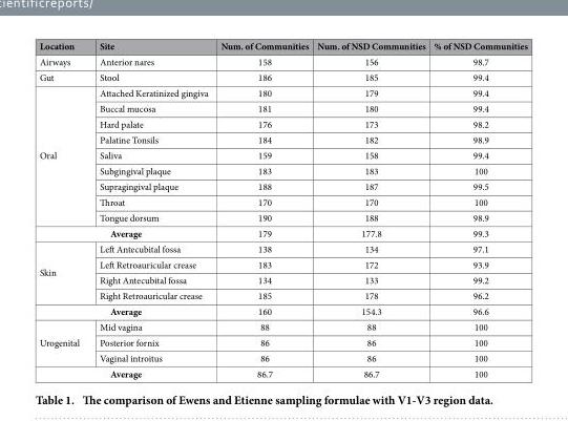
<table><thead><tr><td>Location</td><td>Site</td><td>Num. of Communities</td><td>Num. of NSD Communities</td><td>% of NSD Communities</td></tr></thead><tbody><tr><td>Airways</td><td>Anterior nares</td><td>158</td><td>156</td><td>98.7</td></tr><tr><td>Gut</td><td>Stool</td><td>186</td><td>185</td><td>99.4</td></tr><tr><td rowspan="9">Oral</td><td>Attached Keratinized gingiva</td><td>180</td><td>179</td><td>99.4</td></tr><tr><td>Buccal mucosa</td><td>181</td><td>180</td><td>99.4</td></tr><tr><td>Hard palate</td><td>176</td><td>173</td><td>98.2</td></tr><tr><td>Palatine Tonsils</td><td>184</td><td>182</td><td>98.9</td></tr><tr><td>Saliva</td><td>159</td><td>158</td><td>99.4</td></tr><tr><td>Subgingival plaque</td><td>183</td><td>183</td><td>100</td></tr><tr><td>Supragingival plaque</td><td>188</td><td>187</td><td>99.5</td></tr><tr><td>Throat</td><td>170</td><td>170</td><td>100</td></tr><tr><td>Tongue dorsum</td><td>190</td><td>188</td><td>98.9</td></tr><tr><td colspan="2">Average</td><td>179</td><td>177.8</td><td>99.3</td></tr><tr><td rowspan="4">Skin</td><td>Left Antecubital fossa</td><td>138</td><td>134</td><td>97.1</td></tr><tr><td>Left Retroauricular crease</td><td>183</td><td>172</td><td>93.9</td></tr><tr><td>Right Antecubital fossa</td><td>134</td><td>133</td><td>99.2</td></tr><tr><td>Right Retroauricular crease</td><td>185</td><td>178</td><td>96.2</td></tr><tr><td colspan="2">Average</td><td>160</td><td>154.3</td><td>96.6</td></tr><tr><td rowspan="3">Urogenital</td><td>Mid vagina</td><td>88</td><td>88</td><td>100</td></tr><tr><td>Posterior fornix</td><td>86</td><td>86</td><td>100</td></tr><tr><td>Vaginal introitus</td><td>86</td><td>86</td><td>100</td></tr><tr><td colspan="2">Average</td><td>86.7</td><td>86.7</td><td>100</td></tr></tbody></table>